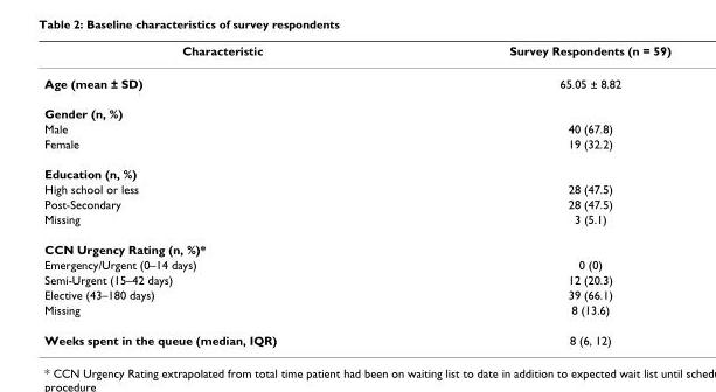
<table><thead><tr><td>Characteristic</td><td>Survey Respondents (n = 59)</td></tr></thead><tbody><tr><td>Age (mean ± SD)</td><td>65.05 ± 8.82</td></tr><tr><td colspan="2">Gender (n, %)</td></tr><tr><td>Male</td><td>40 (67.8)</td></tr><tr><td>Female</td><td>19 (32.2)</td></tr><tr><td colspan="2">Education (n, %)</td></tr><tr><td>High school or less</td><td>28 (47.5)</td></tr><tr><td>Post-Secondary</td><td>28 (47.5)</td></tr><tr><td>Missing</td><td>3 (5.1)</td></tr><tr><td colspan="2">CCN Urgency Rating (n, %)*</td></tr><tr><td>Emergency/Urgent (0–14 days)</td><td>0 (0)</td></tr><tr><td>Semi-Urgent (15–42 days)</td><td>12 (20.3)</td></tr><tr><td>Elective (43–180 days)</td><td>39 (66.1)</td></tr><tr><td>Missing</td><td>8 (13.6)</td></tr><tr><td>Weeks spent in the queue (median, IQR)</td><td>8 (6, 12)</td></tr></tbody></table>